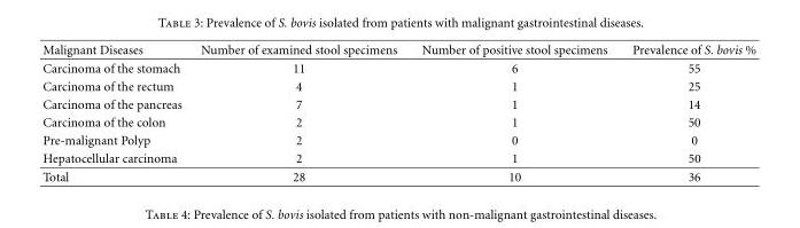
<table><thead><tr><td>Malignant Diseases</td><td>Number of examined stool specimens</td><td>Number of positive stool specimens</td><td>Prevalence of S. bovis %</td></tr></thead><tbody><tr><td>Carcinoma of the stomach</td><td>11</td><td>6</td><td>55</td></tr><tr><td>Carcinoma of the rectum</td><td>4</td><td>1</td><td>25</td></tr><tr><td>Carcinoma of the pancreas</td><td>7</td><td>1</td><td>14</td></tr><tr><td>Carcinoma of the colon</td><td>2</td><td>1</td><td>50</td></tr><tr><td>Pre-malignant Polyp</td><td>2</td><td>0</td><td>0</td></tr><tr><td>Hepatocellular carcinoma</td><td>2</td><td>1</td><td>50</td></tr><tr><td>Total</td><td>28</td><td>10</td><td>36</td></tr></tbody></table>